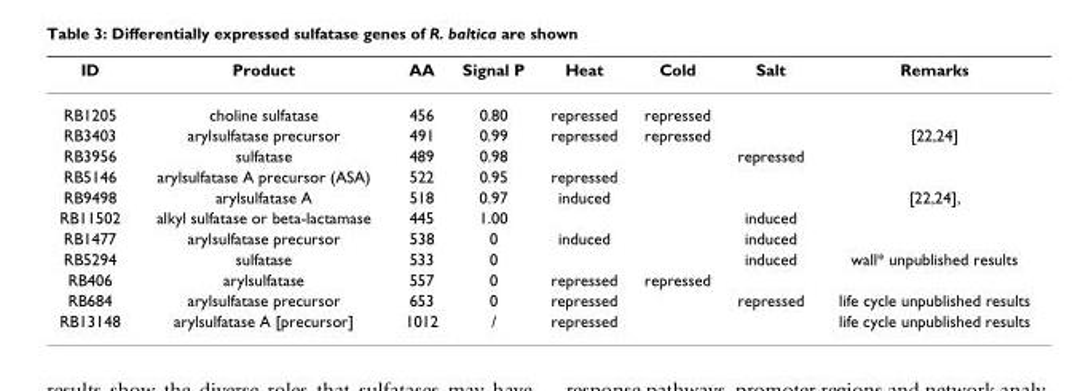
<table><thead><tr><td>ID</td><td>Product</td><td>AA</td><td>Signal P</td><td>Heat</td><td>Cold</td><td>Salt</td><td>Remarks</td></tr></thead><tbody><tr><td>RB1205</td><td>choline sulfatase</td><td>456</td><td>0.80</td><td>repressed</td><td>repressed</td><td></td><td></td></tr><tr><td>RB3403</td><td>arylsulfatase precursor</td><td>491</td><td>0.99</td><td>repressed</td><td>repressed</td><td></td><td>[22,24]</td></tr><tr><td>RB3956</td><td>sulfatase</td><td>489</td><td>0.98</td><td></td><td></td><td>repressed</td><td></td></tr><tr><td>RB5146</td><td>arylsulfatase A precursor (ASA)</td><td>522</td><td>0.95</td><td>repressed</td><td></td><td></td><td></td></tr><tr><td>RB9498</td><td>arylsulfatase A</td><td>518</td><td>0.97</td><td>induced</td><td></td><td></td><td>[22,24],</td></tr><tr><td>RB11502</td><td>alkyl sulfatase or beta-lactamase</td><td>445</td><td>1.00</td><td></td><td></td><td>induced</td><td></td></tr><tr><td>RB1477</td><td>arylsulfatase precursor</td><td>538</td><td>0</td><td>induced</td><td></td><td>induced</td><td></td></tr><tr><td>RB5294</td><td>sulfatase</td><td>533</td><td>0</td><td></td><td></td><td>induced</td><td>wall* unpublished results</td></tr><tr><td>RB406</td><td>arylsulfatase</td><td>557</td><td>0</td><td>repressed</td><td>repressed</td><td></td><td></td></tr><tr><td>RB684</td><td>arylsulfatase precursor</td><td>653</td><td>0</td><td>repressed</td><td></td><td>repressed</td><td>life cycle unpublished results</td></tr><tr><td>RB13148</td><td>arylsulfatase A [precursor]</td><td>1012</td><td>/</td><td>repressed</td><td></td><td></td><td>life cycle unpublished results</td></tr></tbody></table>